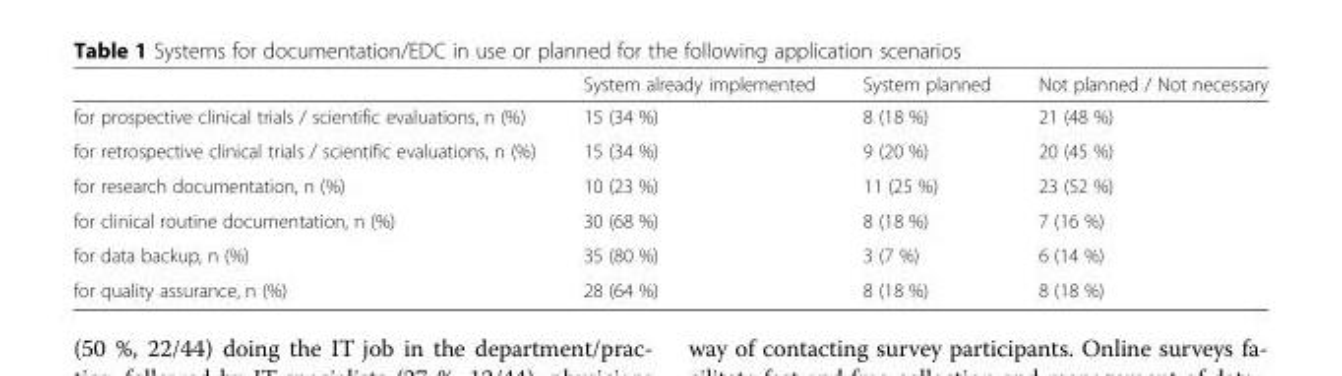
<table><thead><tr><td></td><td>System already implemented</td><td>System planned</td><td>Not planned / Not necessary</td></tr></thead><tbody><tr><td>for prospective clinical trials / scientific evaluations, n (%)</td><td>15 (34 %)</td><td>8 (18 %)</td><td>21 (48 %)</td></tr><tr><td>for retrospective clinical trials / scientific evaluations, n (%)</td><td>15 (34 %)</td><td>9 (20 %)</td><td>20 (45 %)</td></tr><tr><td>for research documentation, n (%)</td><td>10 (23 %)</td><td>11 (25 %)</td><td>23 (52 %)</td></tr><tr><td>for clinical routine documentation, n (%)</td><td>30 (68 %)</td><td>8 (18 %)</td><td>7 (16 %)</td></tr><tr><td>for data backup, n (%)</td><td>35 (80 %)</td><td>3 (7 %)</td><td>6 (14 %)</td></tr><tr><td>for quality assurance, n (%)</td><td>28 (64 %)</td><td>8 (18 %)</td><td>8 (18 %)</td></tr></tbody></table>